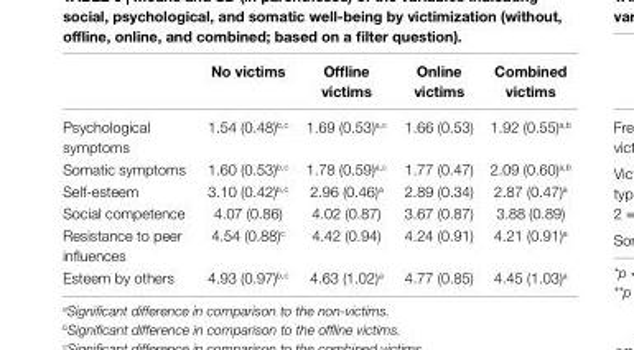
<table><thead><tr><td></td><td>no victims</td><td>Offline victims</td><td>Online victims</td><td>combined victims</td></tr></thead><tbody><tr><td>Psychological symptoms</td><td>1.54 (0.48)<sup>b,c</sup></td><td>1.69 (0.53)<sup>a,c</sup></td><td>1.66 (0.53)</td><td>1.92 (0.55)<sup>a,b</sup></td></tr><tr><td>Somatic symptoms</td><td>1.60 (0.53)<sup>b,c</sup></td><td>1.78 (0.59)<sup>a,c</sup></td><td>1.77 (0.47)</td><td>2.09 (0.60)<sup>a,b</sup></td></tr><tr><td>Self-esteem</td><td>3.10 (0.42)<sup>b,c</sup></td><td>2.96 (0.46)<sup>a</sup></td><td>2.89 (0.34)</td><td>2.87 (0.47)<sup>a</sup></td></tr><tr><td>Social competence</td><td>4.07 (0.86)</td><td>4.02 (0.87)</td><td>3.67 (0.87)</td><td>3.88 (0.89)</td></tr><tr><td>Resistance to peer influences</td><td>4.54 (0.88)<sup>c</sup></td><td>4.42 (0.94)</td><td>4.24 (0.91)</td><td>4.21 (0.91)<sup>a</sup></td></tr><tr><td>Esteem by others</td><td>4.93 (0.97)<sup>b,c</sup></td><td>4.63 (1.02)<sup>a</sup></td><td>4.77 (0.85)</td><td>4.45 (1.03)<sup>a</sup></td></tr></tbody></table>